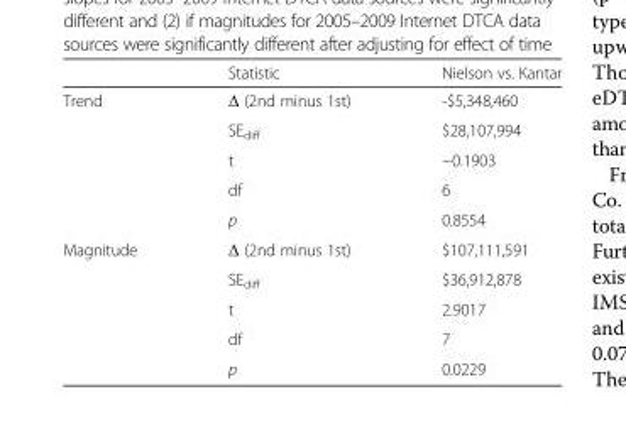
<table><thead><tr><td></td><td>Statistic</td><td>Nielson vs. Kantar</td></tr></thead><tbody><tr><td rowspan="5">Trend</td><td>Δ (2nd minus 1st)</td><td>-$5,348,460</td></tr><tr><td>SE<sub>diff</sub></td><td>$28,107,994</td></tr><tr><td>t</td><td>−0.1903</td></tr><tr><td>df</td><td>6</td></tr><tr><td>p</td><td>0.8554</td></tr><tr><td rowspan="5">Magnitude</td><td>Δ (2nd minus 1st)</td><td>$107,111,591</td></tr><tr><td>SE<sub>diff</sub></td><td>$36,912,878</td></tr><tr><td>t</td><td>2.9017</td></tr><tr><td>df</td><td>7</td></tr><tr><td>p</td><td>0.0229</td></tr></tbody></table>